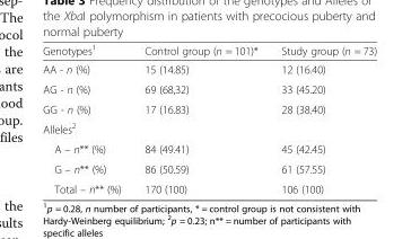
<table><thead><tr><td>Genotypes<sup>1</sup></td><td>Control group (n = 101)*</td><td>Study group (n = 73)</td></tr></thead><tbody><tr><td>AA - n (%)</td><td>15 (14.85)</td><td>12 (16.40)</td></tr><tr><td>AG - n (%)</td><td>69 (68,32)</td><td>33 (45.20)</td></tr><tr><td>GG - n (%)</td><td>17 (16.83)</td><td>28 (38.40)</td></tr><tr><td colspan="3">Alleles<sup>2</sup></td></tr><tr><td>A – n** (%)</td><td>84 (49.41)</td><td>45 (42.45)</td></tr><tr><td>G – n** (%)</td><td>86 (50.59)</td><td>61 (57.55)</td></tr><tr><td>Total – n** (%)</td><td>170 (100)</td><td>106 (100)</td></tr></tbody></table>